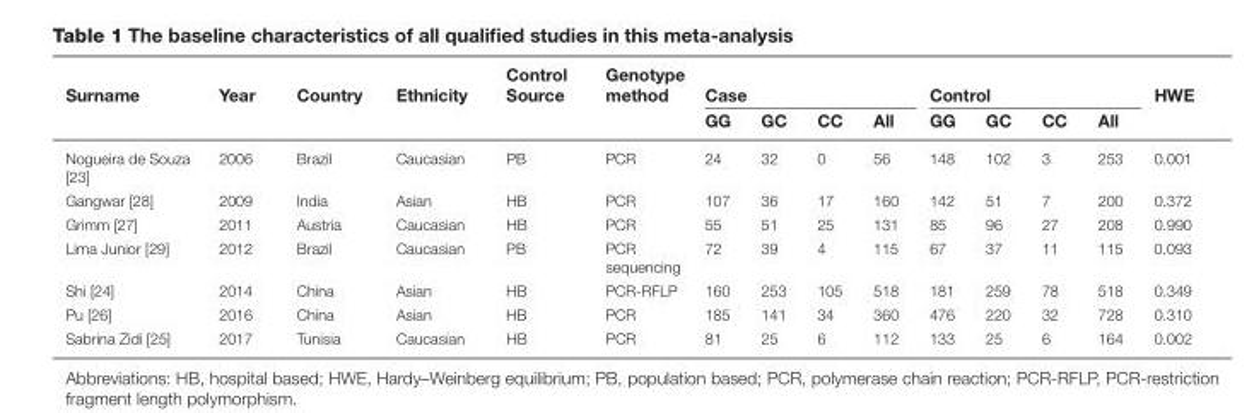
<table><thead><tr><td rowspan="2">Surname</td><td rowspan="2">Year</td><td rowspan="2">Country</td><td rowspan="2">Ethnicity</td><td rowspan="2">Control Source</td><td rowspan="2">Genotype method</td><td colspan="4">Case</td><td colspan="4">Control</td><td rowspan="2">HWE</td></tr><tr><td>GG</td><td>GC</td><td>CC</td><td>All</td><td>GG</td><td>GC</td><td>CC</td><td>All</td></tr></thead><tbody><tr><td>Nogueira de Souza [23]</td><td>2006</td><td>Brazil</td><td>Caucasian</td><td>PB</td><td>PCR</td><td>24</td><td>32</td><td>0</td><td>56</td><td>148</td><td>102</td><td>3</td><td>253</td><td>0.001</td></tr><tr><td>Gangwar [28]</td><td>2009</td><td>India</td><td>Asian</td><td>HB</td><td>PCR</td><td>107</td><td>36</td><td>17</td><td>160</td><td>142</td><td>51</td><td>7</td><td>200</td><td>0.372</td></tr><tr><td>Grimm [27]</td><td>2011</td><td>Austria</td><td>Caucasian</td><td>HB</td><td>PCR</td><td>55</td><td>51</td><td>25</td><td>131</td><td>85</td><td>96</td><td>27</td><td>208</td><td>0.990</td></tr><tr><td>Lima Junior [29]</td><td>2012</td><td>Brazil</td><td>Caucasian</td><td>PB</td><td>PCR sequencing</td><td>72</td><td>39</td><td>4</td><td>115</td><td>67</td><td>37</td><td>11</td><td>115</td><td>0.093</td></tr><tr><td>Shi [24]</td><td>2014</td><td>China</td><td>Asian</td><td>HB</td><td>PCR-RFLP</td><td>160</td><td>253</td><td>105</td><td>518</td><td>181</td><td>259</td><td>78</td><td>518</td><td>0.349</td></tr><tr><td>Pu [26]</td><td>2016</td><td>China</td><td>Asian</td><td>HB</td><td>PCR</td><td>185</td><td>141</td><td>34</td><td>360</td><td>476</td><td>220</td><td>32</td><td>728</td><td>0.310</td></tr><tr><td>Sabrina Zidi [25]</td><td>2017</td><td>Tunisia</td><td>Caucasian</td><td>HB</td><td>PCR</td><td>81</td><td>25</td><td>6</td><td>112</td><td>133</td><td>25</td><td>6</td><td>164</td><td>0.002</td></tr></tbody></table>